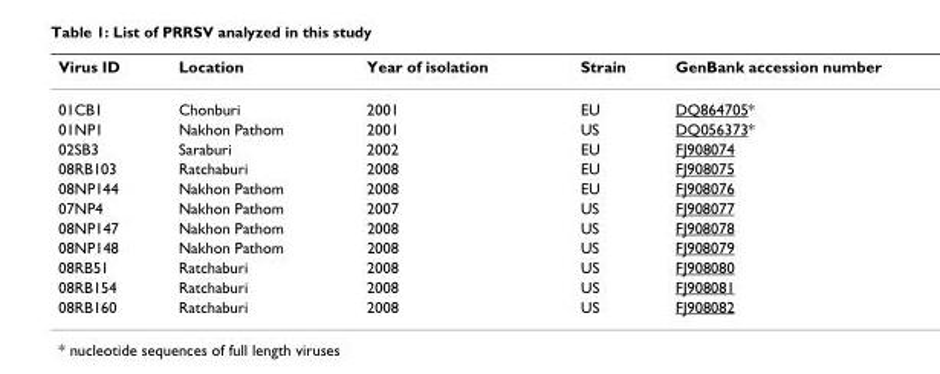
<table><thead><tr><td>Virus ID</td><td>Location</td><td>Year of isolation</td><td>Strain</td><td>GenBank accession number</td></tr></thead><tbody><tr><td>01CB1</td><td>Chonburi</td><td>2001</td><td>EU</td><td>DQ864705*</td></tr><tr><td>01NP1</td><td>Nakhon Pathom</td><td>2001</td><td>US</td><td>DQ056373*</td></tr><tr><td>02SB3</td><td>Saraburi</td><td>2002</td><td>EU</td><td>FJ908074</td></tr><tr><td>08RB103</td><td>Ratchaburi</td><td>2008</td><td>EU</td><td>FJ908075</td></tr><tr><td>08NP144</td><td>Nakhon Pathom</td><td>2008</td><td>EU</td><td>FJ908076</td></tr><tr><td>07NP4</td><td>Nakhon Pathom</td><td>2007</td><td>US</td><td>FJ908077</td></tr><tr><td>08NP147</td><td>Nakhon Pathom</td><td>2008</td><td>US</td><td>FJ908078</td></tr><tr><td>08NP148</td><td>Nakhon Pathom</td><td>2008</td><td>US</td><td>FJ908079</td></tr><tr><td>08RB51</td><td>Ratchaburi</td><td>2008</td><td>US</td><td>FJ908080</td></tr><tr><td>08RB154</td><td>Ratchaburi</td><td>2008</td><td>US</td><td>FJ908081</td></tr><tr><td>08RB160</td><td>Ratchaburi</td><td>2008</td><td>US</td><td>FJ908082</td></tr></tbody></table>